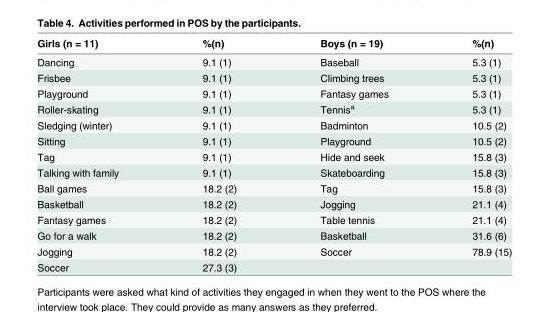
<table><thead><tr><td>Girls (n = 11)</td><td>%(n)</td><td>Boys (n = 19)</td><td>%(n)</td></tr></thead><tbody><tr><td>Dancing</td><td>9.1 (1)</td><td>Baseball</td><td>5.3 (1)</td></tr><tr><td>Frisbee</td><td>9.1 (1)</td><td>Climbing trees</td><td>5.3 (1)</td></tr><tr><td>Playground</td><td>9.1 (1)</td><td>Fantasy games</td><td>5.3 (1)</td></tr><tr><td>Roller-skating</td><td>9.1 (1)</td><td>Tennis<sup>a</sup></td><td>5.3 (1)</td></tr><tr><td>Sledging (winter)</td><td>9.1 (1)</td><td>Badminton</td><td>10.5 (2)</td></tr><tr><td>Sitting</td><td>9.1 (1)</td><td>Playground</td><td>10.5 (2)</td></tr><tr><td>Tag</td><td>9.1 (1)</td><td>Hide and seek</td><td>15.8 (3)</td></tr><tr><td>Talking with family</td><td>9.1 (1)</td><td>Skateboarding</td><td>15.8 (3)</td></tr><tr><td>Ball games</td><td>18.2 (2)</td><td>Tag</td><td>15.8 (3)</td></tr><tr><td>Basketball</td><td>18.2 (2)</td><td>Jogging</td><td>21.1 (4)</td></tr><tr><td>Fantasy games</td><td>18.2 (2)</td><td>Table tennis</td><td>21.1 (4)</td></tr><tr><td>Go for a walk</td><td>18.2 (2)</td><td>Basketball</td><td>31.6 (6)</td></tr><tr><td>Jogging</td><td>18.2 (2)</td><td>Soccer</td><td>78.9 (15)</td></tr><tr><td>Soccer</td><td>27.3 (3)</td><td></td><td></td></tr></tbody></table>